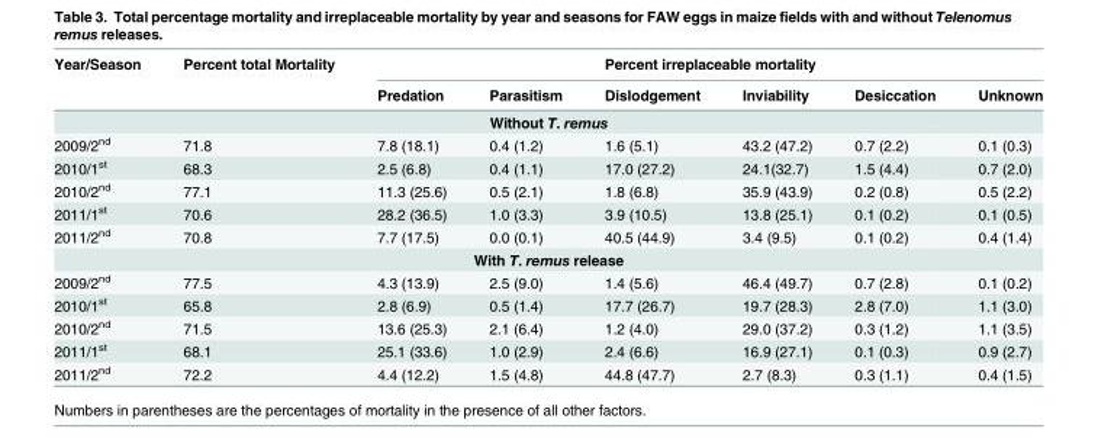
<table><thead><tr><td rowspan="2">Year/Season</td><td rowspan="2">Percent total Mortality</td><td colspan="6">Percent irreplaceable mortality</td></tr><tr><td>Predation</td><td>Parasitism</td><td>Dislodgement</td><td>Inviability</td><td>Desiccation</td><td>Unknown</td></tr></thead><tbody><tr><td colspan="8">Without T. remus</td></tr><tr><td>2009/2<sup>nd</sup></td><td>71.8</td><td>7.8 (18.1)</td><td>0.4 (1.2)</td><td>1.6 (5.1)</td><td>43.2 (47.2)</td><td>0.7 (2.2)</td><td>0.1 (0.3)</td></tr><tr><td>2010/1<sup>st</sup></td><td>68.3</td><td>2.5 (6.8)</td><td>0.4 (1.1)</td><td>17.0 (27.2)</td><td>24.1(32.7)</td><td>1.5 (4.4)</td><td>0.7 (2.0)</td></tr><tr><td>2010/2<sup>nd</sup></td><td>77.1</td><td>11.3 (25.6)</td><td>0.5 (2.1)</td><td>1.8 (6.8)</td><td>35.9 (43.9)</td><td>0.2 (0.8)</td><td>0.5 (2.2)</td></tr><tr><td>2011/1<sup>st</sup></td><td>70.6</td><td>28.2 (36.5)</td><td>1.0 (3.3)</td><td>3.9 (10.5)</td><td>13.8 (25.1)</td><td>0.1 (0.2)</td><td>0.1 (0.5)</td></tr><tr><td>2011/2<sup>nd</sup></td><td>70.8</td><td>7.7 (17.5)</td><td>0.0 (0.1)</td><td>40.5 (44.9)</td><td>3.4 (9.5)</td><td>0.1 (0.2)</td><td>0.4 (1.4)</td></tr><tr><td colspan="8">With T. remus release</td></tr><tr><td>2009/2<sup>nd</sup></td><td>77.5</td><td>4.3 (13.9)</td><td>2.5 (9.0)</td><td>1.4 (5.6)</td><td>46.4 (49.7)</td><td>0.7 (2.8)</td><td>0.1 (0.2)</td></tr><tr><td>2010/1<sup>st</sup></td><td>65.8</td><td>2.8 (6.9)</td><td>0.5 (1.4)</td><td>17.7 (26.7)</td><td>19.7 (28.3)</td><td>2.8 (7.0)</td><td>1.1 (3.0)</td></tr><tr><td>2010/2<sup>nd</sup></td><td>71.5</td><td>13.6 (25.3)</td><td>2.1 (6.4)</td><td>1.2 (4.0)</td><td>29.0 (37.2)</td><td>0.3 (1.2)</td><td>1.1 (3.5)</td></tr><tr><td>2011/1<sup>st</sup></td><td>68.1</td><td>25.1 (33.6)</td><td>1.0 (2.9)</td><td>2.4 (6.6)</td><td>16.9 (27.1)</td><td>0.1 (0.3)</td><td>0.9 (2.7)</td></tr><tr><td>2011/2<sup>nd</sup></td><td>72.2</td><td>4.4 (12.2)</td><td>1.5 (4.8)</td><td>44.8 (47.7)</td><td>2.7 (8.3)</td><td>0.3 (1.1)</td><td>0.4 (1.5)</td></tr></tbody></table>